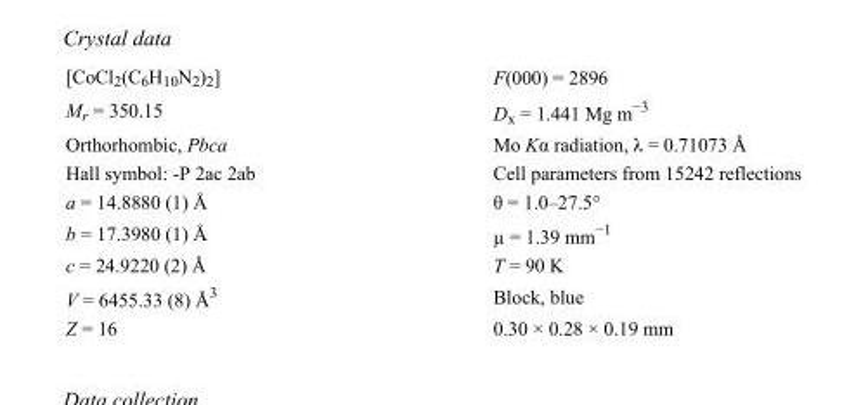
<table><tbody><tr><td>[CoCl<sub>2</sub>(C<sub>6</sub>H<sub>10</sub>N<sub>2</sub>)<sub>2</sub>]</td><td>F(000) = 2896</td></tr><tr><td>M<sub>r</sub> = 350.15</td><td>D<sub>x</sub> = 1.441 Mg m<sup>−3</sup></td></tr><tr><td>Orthorhombic, Pbca</td><td>Mo Kα radiation, λ = 0.71073 Å</td></tr><tr><td>Hall symbol: -P 2ac 2ab</td><td>Cell parameters from 15242 reflections</td></tr><tr><td>a = 14.8880 (1) Å</td><td>θ = 1.0–27.5°</td></tr><tr><td>b = 17.3980 (1) Å</td><td>µ = 1.39 mm<sup>−1</sup></td></tr><tr><td>c = 24.9220 (2) Å</td><td>T = 90 K</td></tr><tr><td>V = 6455.33 (8) Å<sup>3</sup></td><td>Block, blue</td></tr><tr><td>Z = 16</td><td>0.30 × 0.28 × 0.19 mm</td></tr></tbody></table>